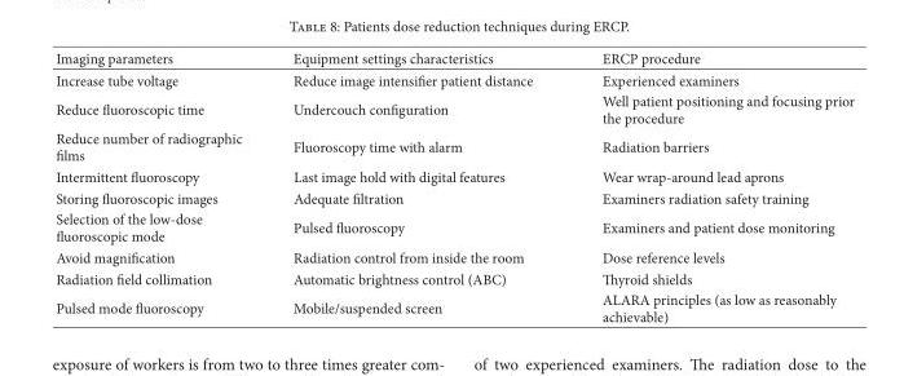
<table><tbody><tr><td>Imaging parameters</td><td>Equipment settings characteristics</td><td>ERCP procedure</td></tr><tr><td>Increase tube voltage</td><td>Reduce image intensifier patient distance</td><td>Experienced examiners</td></tr><tr><td>Reduce fluoroscopic time</td><td>Undercouch configuration</td><td>Well patient positioning and focusing prior the procedure</td></tr><tr><td>Reduce number of radiographic films</td><td>Fluoroscopy time with alarm</td><td>Radiation barriers</td></tr><tr><td>Intermittent fluoroscopy</td><td>Last image hold with digital features</td><td>Wear wrap-around lead aprons</td></tr><tr><td>Storing fluoroscopic images</td><td>Adequate filtration</td><td>Examiners radiation safety training</td></tr><tr><td>Selection of the low-dose fluoroscopic mode</td><td>Pulsed fluoroscopy</td><td>Examiners and patient dose monitoring</td></tr><tr><td>Avoid magnification</td><td>Radiation control from inside the room</td><td>Dose reference levels</td></tr><tr><td>Radiation field collimation</td><td>Automatic brightness control (ABC)</td><td>Thyroid shields</td></tr><tr><td>Pulsed mode fluoroscopy</td><td>Mobile/suspended screen</td><td>ALARA principles (as low as reasonably achievable)</td></tr></tbody></table>